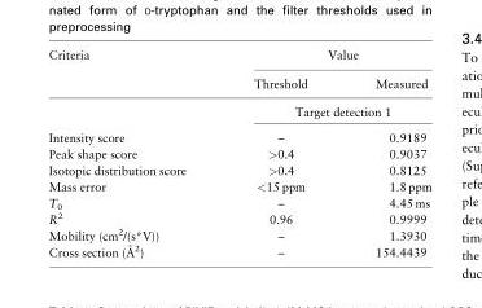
<table><thead><tr><td rowspan="2">Criteria</td><td colspan="2">Value</td></tr><tr><td>Threshold</td><td>Measured</td></tr></thead><tbody><tr><td></td><td colspan="2">Target detection 1</td></tr><tr><td>Intensity score</td><td>–</td><td>0.9189</td></tr><tr><td>Peak shape score</td><td>&gt;0.4</td><td>0.9037</td></tr><tr><td>Isotopic distribution score</td><td>&gt;0.4</td><td>0.8125</td></tr><tr><td>Mass error</td><td>&lt;15 ppm</td><td>1.8 ppm</td></tr><tr><td>T<sub>0</sub></td><td>–</td><td>4.45 ms</td></tr><tr><td>R<sup>2</sup></td><td>0.96</td><td>0.9999</td></tr><tr><td>Mobility (cm<sup>2</sup>/(s*V))</td><td>–</td><td>1.3930</td></tr><tr><td>Cross section (A˚ 2)</td><td>–</td><td>154.4439</td></tr></tbody></table>